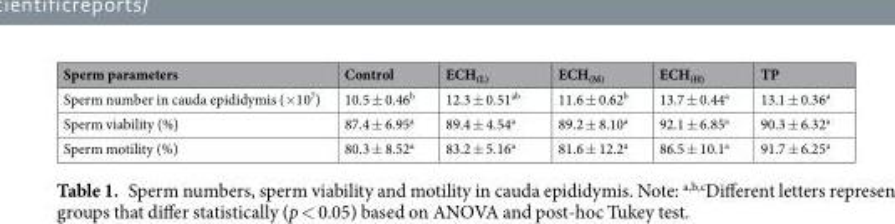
<table><thead><tr><td>Sperm parameters</td><td>Control</td><td>ECH<sub>(L)</sub></td><td>ECH<sub>(M)</sub></td><td>ECH<sub>(H)</sub></td><td>TP</td></tr></thead><tbody><tr><td>Sperm number in cauda epididymis (×10<sup>7</sup>)</td><td>10.5 ± 0.46<sup>b</sup></td><td>12.3 ± 0.51<sup>ab</sup></td><td>11.6 ± 0.62<sup>b</sup></td><td>13.7 ± 0.44<sup>a</sup></td><td>13.1 ± 0.36<sup>a</sup></td></tr><tr><td>Sperm viability (%)</td><td>87.4 ± 6.95<sup>a</sup></td><td>89.4 ± 4.54<sup>a</sup></td><td>89.2 ± 8.10<sup>a</sup></td><td>92.1 ± 6.85<sup>a</sup></td><td>90.3 ± 6.32<sup>a</sup></td></tr><tr><td>Sperm motility (%)</td><td>80.3 ± 8.52<sup>a</sup></td><td>83.2 ± 5.16<sup>a</sup></td><td>81.6 ± 12.2<sup>a</sup></td><td>86.5 ± 10.1<sup>a</sup></td><td>91.7 ± 6.25<sup>a</sup></td></tr></tbody></table>